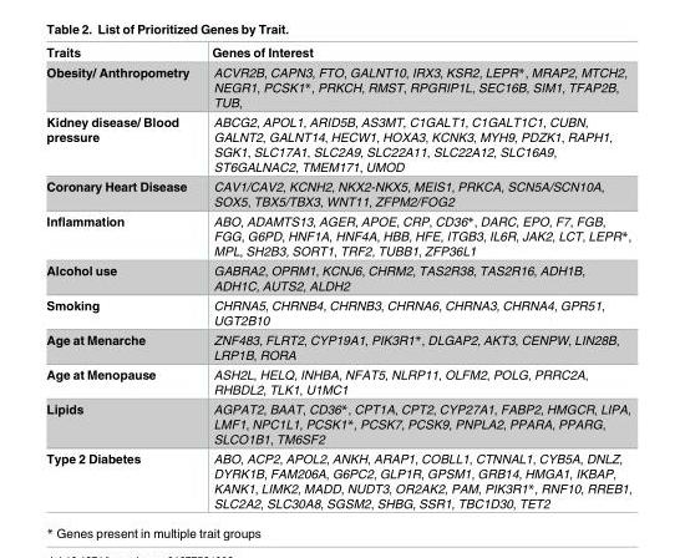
<table><thead><tr><td>Traits</td><td>Genes of Interest</td></tr></thead><tbody><tr><td>Obesity/ Anthropometry</td><td>ACVR2B, CAPN3, FTO, GALNT10, IRX3, KSR2, LEPR*, MRAP2, MTCH2, NEGR1, PCSK1*, PRKCH, RMST, RPGRIP1L, SEC16B, SIM1, TFAP2B, TUB,</td></tr><tr><td>Kidney disease/ Blood pressure</td><td>ABCG2, APOL1, ARID5B, AS3MT, C1GALT1, C1GALT1C1, CUBN, GALNT2, GALNT14, HECW1, HOXA3, KCNK3, MYH9, PDZK1, RAPH1, SGK1, SLC17A1, SLC2A9, SLC22A11, SLC22A12, SLC16A9, ST6GALNAC2, TMEM171, UMOD</td></tr><tr><td>Coronary Heart Disease</td><td>CAV1/CAV2, KCNH2, NKX2-NKX5, MEIS1, PRKCA, SCN5A/SCN10A, SOX5, TBX5/TBX3, WNT11, ZFPM2/FOG2</td></tr><tr><td>Inflammation</td><td>ABO, ADAMTS13, AGER, APOE, CRP, CD36*, DARC, EPO, F7, FGB, FGG, G6PD, HNF1A, HNF4A, HBB, HFE, ITGB3, IL6R, JAK2, LCT, LEPR*, MPL, SH2B3, SORT1, TRF2, TUBB1, ZFP36L1</td></tr><tr><td>Alcohol use</td><td>GABRA2, OPRM1, KCNJ6, CHRM2, TAS2R38, TAS2R16, ADH1B, ADH1C, AUTS2, ALDH2</td></tr><tr><td>Smoking</td><td>CHRNA5, CHRNB4, CHRNB3, CHRNA6, CHRNA3, CHRNA4, GPR51, UGT2B10</td></tr><tr><td>Age at Menarche</td><td>ZNF483, FLRT2, CYP19A1, PIK3R1*, DLGAP2, AKT3, CENPW, LIN28B, LRP1B, RORA</td></tr><tr><td>Age at Menopause</td><td>ASH2L, HELQ, INHBA, NFAT5, NLRP11, OLFM2, POLG, PRRC2A, RHBDL2, TLK1, U1MC1</td></tr><tr><td>Lipids</td><td>AGPAT2, BAAT, CD36*, CPT1A, CPT2, CYP27A1, FABP2, HMGCR, LIPA, LMF1, NPC1L1, PCSK1*, PCSK7, PCSK9, PNPLA2, PPARA, PPARG, SLCO1B1, TM6SF2</td></tr><tr><td>Type 2 Diabetes</td><td>ABO, ACP2, APOL2, ANKH, ARAP1, COBLL1, CTNNAL1, CYB5A, DNLZ, DYRK1B, FAM206A, G6PC2, GLP1R, GPSM1, GRB14, HMGA1, IKBAP, KANK1, LIMK2, MADD, NUDT3, OR2AK2, PAM, PIK3R1*, RNF10, RREB1, SLC2A2, SLC30A8, SGSM2, SHBG, SSR1, TBC1D30, TET2</td></tr></tbody></table>